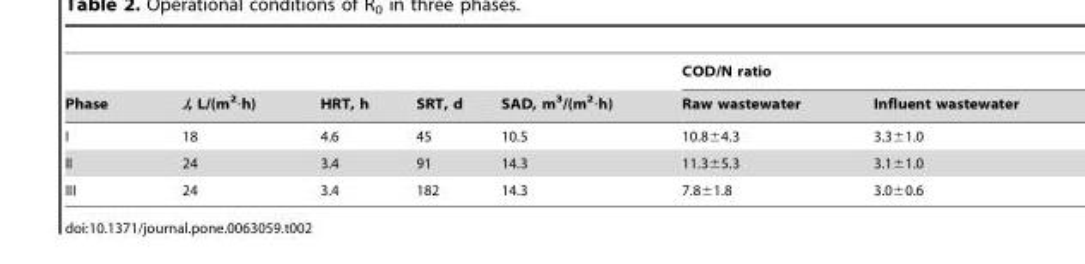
<table><thead><tr><td rowspan="2">Phase</td><td rowspan="2">J, L/(m<sup>2</sup>·h)</td><td rowspan="2">HRT, h</td><td rowspan="2">SRT, d</td><td rowspan="2">SAD, m<sup>3</sup>/(m<sup>2</sup>·h)</td><td colspan="2">COD/N ratio</td></tr><tr><td>Raw wastewater</td><td>Influent wastewater</td></tr></thead><tbody><tr><td>I</td><td>18</td><td>4.6</td><td>45</td><td>10.5</td><td>10.8±4.3</td><td>3.3±1.0</td></tr><tr><td>II</td><td>24</td><td>3.4</td><td>91</td><td>14.3</td><td>11.3±5.3</td><td>3.1±1.0</td></tr><tr><td>III</td><td>24</td><td>3.4</td><td>182</td><td>14.3</td><td>7.8±1.8</td><td>3.0±0.6</td></tr></tbody></table>